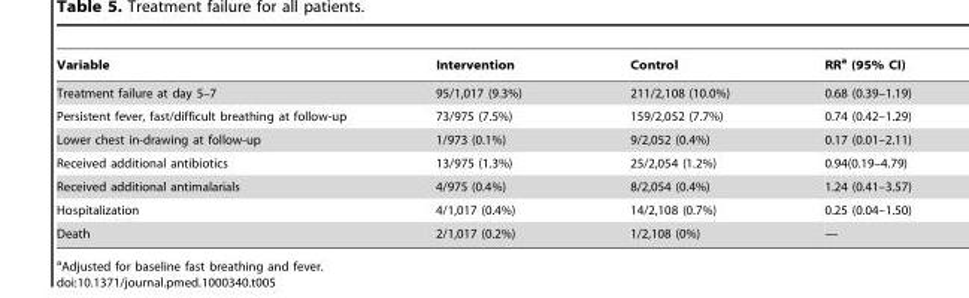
<table><thead><tr><td>Variable</td><td>Intervention</td><td>Control</td><td>RR<sup>a</sup> (95% CI)</td></tr></thead><tbody><tr><td>Treatment failure at day 5–7</td><td>95/1,017 (9.3%)</td><td>211/2,108 (10.0%)</td><td>0.68 (0.39–1.19)</td></tr><tr><td>Persistent fever, fast/difficult breathing at follow-up</td><td>73/975 (7.5%)</td><td>159/2,052 (7.7%)</td><td>0.74 (0.42–1.29)</td></tr><tr><td>Lower chest in-drawing at follow-up</td><td>1/973 (0.1%)</td><td>9/2,052 (0.4%)</td><td>0.17 (0.01–2.11)</td></tr><tr><td>Received additional antibiotics</td><td>13/975 (1.3%)</td><td>25/2,054 (1.2%)</td><td>0.94(0.19–4.79)</td></tr><tr><td>Received additional antimalarials</td><td>4/975 (0.4%)</td><td>8/2,054 (0.4%)</td><td>1.24 (0.41–3.57)</td></tr><tr><td>Hospitalization</td><td>4/1,017 (0.4%)</td><td>14/2,108 (0.7%)</td><td>0.25 (0.04–1.50)</td></tr><tr><td>Death</td><td>2/1,017 (0.2%)</td><td>1/2,108 (0%)</td><td>—</td></tr></tbody></table>